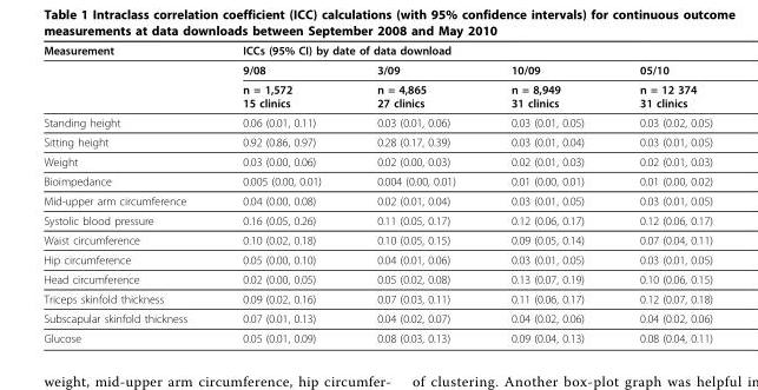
<table><thead><tr><td rowspan="2">Measurement</td><td colspan="4">ICCs (95% CI) by date of data download</td></tr><tr><td>9/08</td><td>3/09</td><td>10/09</td><td>05/10</td></tr></thead><tbody><tr><td></td><td>n = 1,572 15 clinics</td><td>n = 4,865 27 clinics</td><td>n = 8,949 31 clinics</td><td>n = 12 374 31 clinics</td></tr><tr><td>Standing height</td><td>0.06 (0.01, 0.11)</td><td>0.03 (0.01, 0.06)</td><td>0.03 (0.01, 0.05)</td><td>0.03 (0.02, 0.05)</td></tr><tr><td>Sitting height</td><td>0.92 (0.86, 0.97)</td><td>0.28 (0.17, 0.39)</td><td>0.03 (0.01, 0.04)</td><td>0.03 (0.01, 0.05)</td></tr><tr><td>Weight</td><td>0.03 (0.00, 0.06)</td><td>0.02 (0.00, 0.03)</td><td>0.02 (0.01, 0.03)</td><td>0.02 (0.01, 0.03)</td></tr><tr><td>Bioimpedance</td><td>0.005 (0.00, 0.01)</td><td>0.004 (0.00, 0.01)</td><td>0.01 (0.00, 0.01)</td><td>0.01 (0.00, 0.02)</td></tr><tr><td>Mid-upper arm circumference</td><td>0.04 (0.00, 0.08)</td><td>0.02 (0.01, 0.04)</td><td>0.03 (0.01, 0.05)</td><td>0.03 (0.01, 0.05)</td></tr><tr><td>Systolic blood pressure</td><td>0.16 (0.05, 0.26)</td><td>0.11 (0.05, 0.17)</td><td>0.12 (0.06, 0.17)</td><td>0.12 (0.06, 0.17)</td></tr><tr><td>Waist circumference</td><td>0.10 (0.02, 0.18)</td><td>0.10 (0.05, 0.15)</td><td>0.09 (0.05, 0.14)</td><td>0.07 (0.04, 0.11)</td></tr><tr><td>Hip circumference</td><td>0.05 (0.00, 0.10)</td><td>0.04 (0.01, 0.06)</td><td>0.03 (0.01, 0.05)</td><td>0.03 (0.01, 0.05)</td></tr><tr><td>Head circumference</td><td>0.02 (0.00, 0.05)</td><td>0.05 (0.02, 0.08)</td><td>0.13 (0.07, 0.19)</td><td>0.10 (0.06, 0.15)</td></tr><tr><td>Triceps skinfold thickness</td><td>0.09 (0.02, 0.16)</td><td>0.07 (0.03, 0.11)</td><td>0.11 (0.06, 0.17)</td><td>0.12 (0.07, 0.18)</td></tr><tr><td>Subscapular skinfold thickness</td><td>0.07 (0.01, 0.13)</td><td>0.04 (0.02, 0.07)</td><td>0.04 (0.02, 0.06)</td><td>0.04 (0.02, 0.06)</td></tr><tr><td>Glucose</td><td>0.05 (0.01, 0.09)</td><td>0.08 (0.03, 0.13)</td><td>0.09 (0.04, 0.13)</td><td>0.08 (0.04, 0.11)</td></tr></tbody></table>